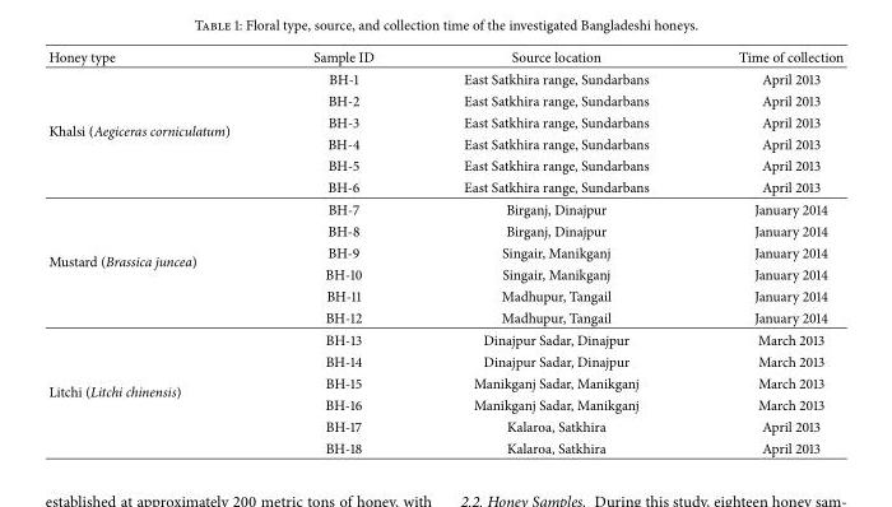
<table><thead><tr><td>Honey type</td><td>Sample ID</td><td>Source location</td><td>Time of collection</td></tr></thead><tbody><tr><td rowspan="6">Khalsi (Aegiceras corniculatum)</td><td>BH-1</td><td>East Satkhira range, Sundarbans</td><td>April 2013</td></tr><tr><td>BH-2</td><td>East Satkhira range, Sundarbans</td><td>April 2013</td></tr><tr><td>BH-3</td><td>East Satkhira range, Sundarbans</td><td>April 2013</td></tr><tr><td>BH-4</td><td>East Satkhira range, Sundarbans</td><td>April 2013</td></tr><tr><td>BH-5</td><td>East Satkhira range, Sundarbans</td><td>April 2013</td></tr><tr><td>BH-6</td><td>East Satkhira range, Sundarbans</td><td>April 2013</td></tr><tr><td rowspan="6">Mustard (Brassica juncea)</td><td>BH-7</td><td>Birganj, Dinajpur</td><td>January 2014</td></tr><tr><td>BH-8</td><td>Birganj, Dinajpur</td><td>January 2014</td></tr><tr><td>BH-9</td><td>Singair, Manikganj</td><td>January 2014</td></tr><tr><td>BH-10</td><td>Singair, Manikganj</td><td>January 2014</td></tr><tr><td>BH-11</td><td>Madhupur, Tangail</td><td>January 2014</td></tr><tr><td>BH-12</td><td>Madhupur, Tangail</td><td>January 2014</td></tr><tr><td rowspan="6">Litchi (Litchi chinensis)</td><td>BH-13</td><td>Dinajpur Sadar, Dinajpur</td><td>March 2013</td></tr><tr><td>BH-14</td><td>Dinajpur Sadar, Dinajpur</td><td>March 2013</td></tr><tr><td>BH-15</td><td>Manikganj Sadar, Manikganj</td><td>March 2013</td></tr><tr><td>BH-16</td><td>Manikganj Sadar, Manikganj</td><td>March 2013</td></tr><tr><td>BH-17</td><td>Kalaroa, Satkhira</td><td>April 2013</td></tr><tr><td>BH-18</td><td>Kalaroa, Satkhira</td><td>April 2013</td></tr></tbody></table>